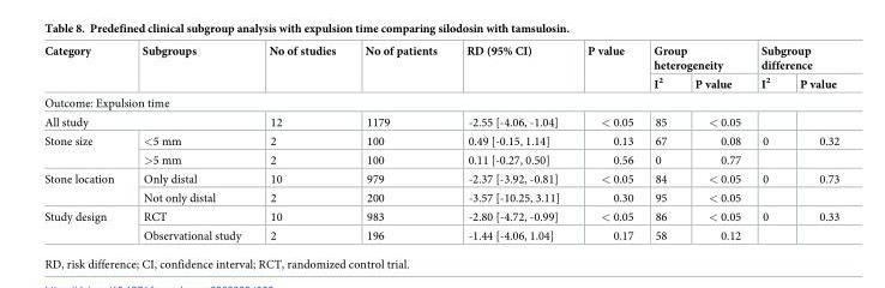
<table><thead><tr><td rowspan="2">Category</td><td rowspan="2">Subgroups</td><td rowspan="2">No of studies</td><td rowspan="2">No of patients</td><td rowspan="2">RD (95% CI)</td><td rowspan="2">P value</td><td colspan="2">Group heterogeneity</td><td colspan="2">Subgroup difference</td></tr><tr><td>I<sup>2</sup></td><td>P value</td><td>I<sup>2</sup></td><td>P value</td></tr></thead><tbody><tr><td colspan="10">Outcome: Expulsion time</td></tr><tr><td colspan="2">All study</td><td>12</td><td>1179</td><td>-2.55 [-4.06, -1.04]</td><td>&lt; 0.05</td><td>85</td><td>&lt; 0.05</td><td></td><td></td></tr><tr><td rowspan="2">Stone size</td><td>&lt;5 mm</td><td>2</td><td>100</td><td>0.49 [-0.15, 1.14]</td><td>0.13</td><td>67</td><td>0.08</td><td>0</td><td>0.32</td></tr><tr><td>&gt;5 mm</td><td>2</td><td>100</td><td>0.11 [-0.27, 0.50]</td><td>0.56</td><td>0</td><td>0.77</td><td></td><td></td></tr><tr><td rowspan="2">Stone location</td><td>Only distal</td><td>10</td><td>979</td><td>-2.37 [-3.92, -0.81]</td><td>&lt; 0.05</td><td>84</td><td>&lt; 0.05</td><td>0</td><td>0.73</td></tr><tr><td>Not only distal</td><td>2</td><td>200</td><td>-3.57 [-10.25, 3.11]</td><td>0.30</td><td>95</td><td>&lt; 0.05</td><td></td><td></td></tr><tr><td rowspan="2">Study design</td><td>RCT</td><td>10</td><td>983</td><td>-2.80 [-4.72, -0.99]</td><td>&lt; 0.05</td><td>86</td><td>&lt; 0.05</td><td>0</td><td>0.33</td></tr><tr><td>Observational study</td><td>2</td><td>196</td><td>-1.44 [-4.06, 1.04]</td><td>0.17</td><td>58</td><td>0.12</td><td></td><td></td></tr></tbody></table>